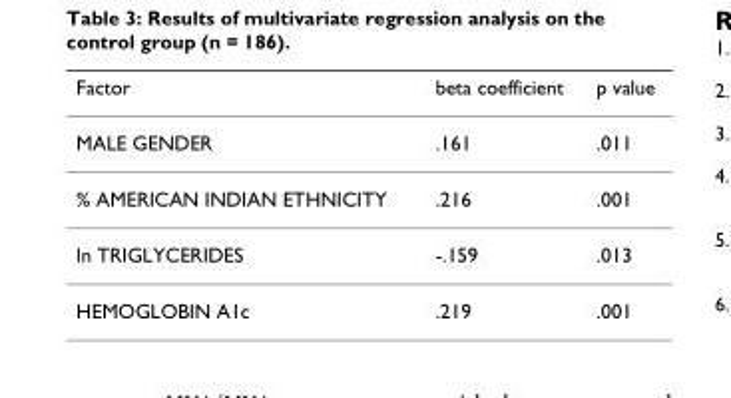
<table><thead><tr><td>Factor</td><td>beta coefficient</td><td>p value</td></tr></thead><tbody><tr><td>MALE GENDER</td><td>.161</td><td>.011</td></tr><tr><td>% AMERICAN INDIAN ETHNICITY</td><td>.216</td><td>.001</td></tr><tr><td>ln TRIGLYCERIDES</td><td>-.159</td><td>.013</td></tr><tr><td>HEMOGLOBIN A1c</td><td>.219</td><td>.001</td></tr></tbody></table>